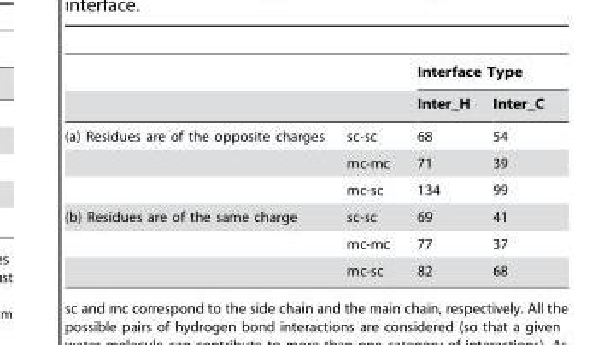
<table><thead><tr><td rowspan="2"></td><td rowspan="2"></td><td colspan="2">Interface Type</td></tr><tr><td>Inter_H</td><td>Inter_C</td></tr></thead><tbody><tr><td rowspan="3">(a) Residues are of the opposite charges</td><td>sc-sc</td><td>68</td><td>54</td></tr><tr><td>mc-mc</td><td>71</td><td>39</td></tr><tr><td>mc-sc</td><td>134</td><td>99</td></tr><tr><td rowspan="3">(b) Residues are of the same charge</td><td>sc-sc</td><td>69</td><td>41</td></tr><tr><td>mc-mc</td><td>77</td><td>37</td></tr><tr><td>mc-sc</td><td>82</td><td>68</td></tr></tbody></table>